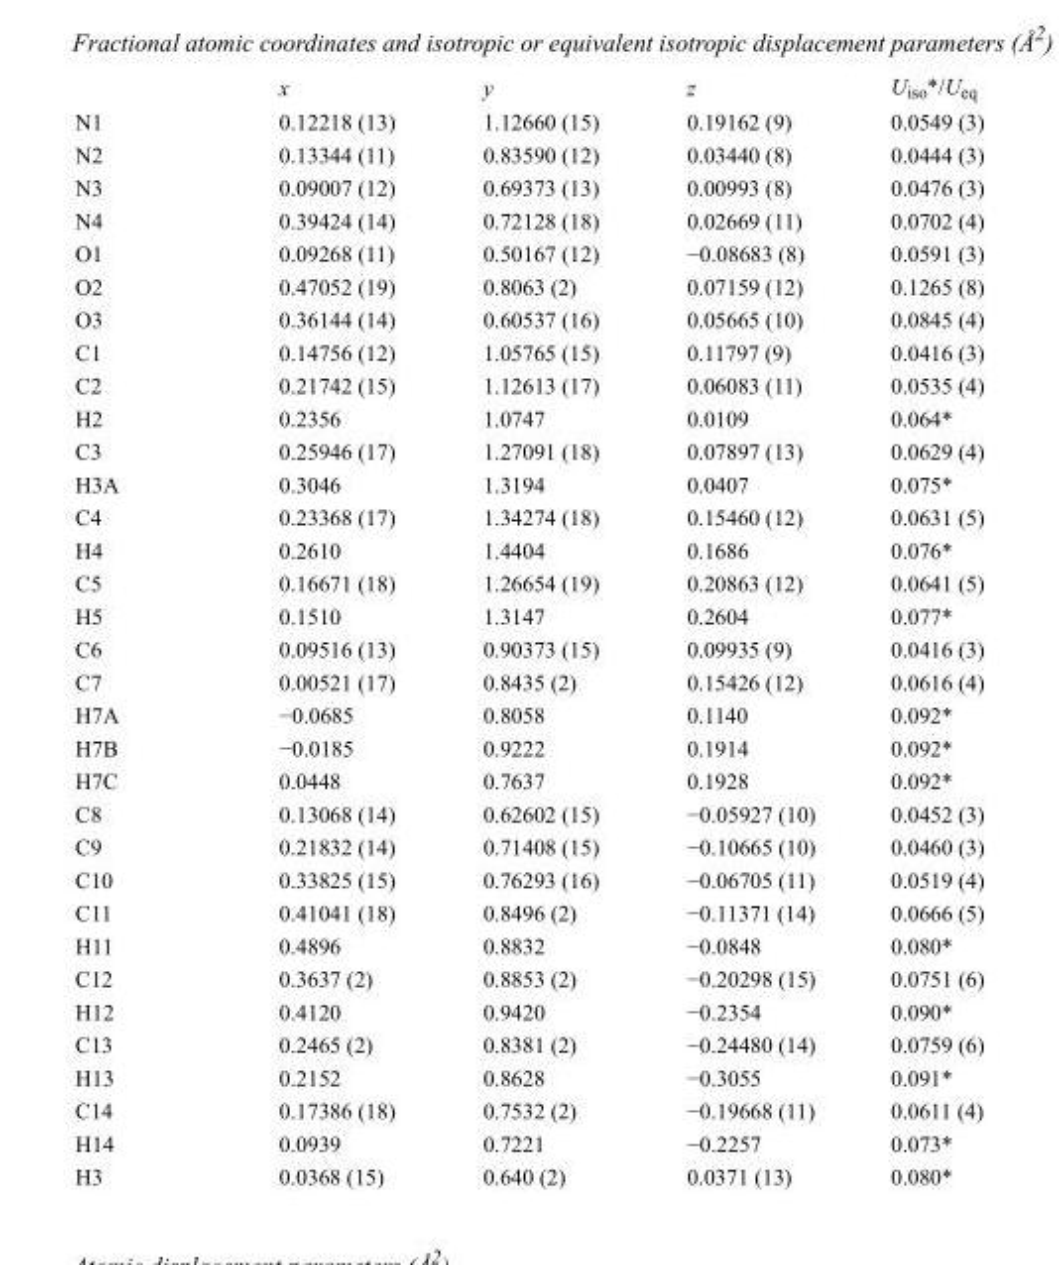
<table><thead><tr><td></td><td>x</td><td>y</td><td>z</td><td>U<sub>iso</sub>*/U<sub>eq</sub></td></tr></thead><tbody><tr><td>N1</td><td>0.12218 (13)</td><td>1.12660 (15)</td><td>0.19162 (9)</td><td>0.0549 (3)</td></tr><tr><td>N2</td><td>0.13344 (11)</td><td>0.83590 (12)</td><td>0.03440 (8)</td><td>0.0444 (3)</td></tr><tr><td>N3</td><td>0.09007 (12)</td><td>0.69373 (13)</td><td>0.00993 (8)</td><td>0.0476 (3)</td></tr><tr><td>N4</td><td>0.39424 (14)</td><td>0.72128 (18)</td><td>0.02669 (11)</td><td>0.0702 (4)</td></tr><tr><td>O1</td><td>0.09268 (11)</td><td>0.50167 (12)</td><td>−0.08683 (8)</td><td>0.0591 (3)</td></tr><tr><td>O2</td><td>0.47052 (19)</td><td>0.8063 (2)</td><td>0.07159 (12)</td><td>0.1265 (8)</td></tr><tr><td>O3</td><td>0.36144 (14)</td><td>0.60537 (16)</td><td>0.05665 (10)</td><td>0.0845 (4)</td></tr><tr><td>C1</td><td>0.14756 (12)</td><td>1.05765 (15)</td><td>0.11797 (9)</td><td>0.0416 (3)</td></tr><tr><td>C2</td><td>0.21742 (15)</td><td>1.12613 (17)</td><td>0.06083 (11)</td><td>0.0535 (4)</td></tr><tr><td>H2</td><td>0.2356</td><td>1.0747</td><td>0.0109</td><td>0.064*</td></tr><tr><td>C3</td><td>0.25946 (17)</td><td>1.27091 (18)</td><td>0.07897 (13)</td><td>0.0629 (4)</td></tr><tr><td>H3A</td><td>0.3046</td><td>1.3194</td><td>0.0407</td><td>0.075*</td></tr><tr><td>C4</td><td>0.23368 (17)</td><td>1.34274 (18)</td><td>0.15460 (12)</td><td>0.0631 (5)</td></tr><tr><td>H4</td><td>0.2610</td><td>1.4404</td><td>0.1686</td><td>0.076*</td></tr><tr><td>C5</td><td>0.16671 (18)</td><td>1.26654 (19)</td><td>0.20863 (12)</td><td>0.0641 (5)</td></tr><tr><td>H5</td><td>0.1510</td><td>1.3147</td><td>0.2604</td><td>0.077*</td></tr><tr><td>C6</td><td>0.09516 (13)</td><td>0.90373 (15)</td><td>0.09935 (9)</td><td>0.0416 (3)</td></tr><tr><td>C7</td><td>0.00521 (17)</td><td>0.8435 (2)</td><td>0.15426 (12)</td><td>0.0616 (4)</td></tr><tr><td>H7A</td><td>−0.0685</td><td>0.8058</td><td>0.1140</td><td>0.092*</td></tr><tr><td>H7B</td><td>−0.0185</td><td>0.9222</td><td>0.1914</td><td>0.092*</td></tr><tr><td>H7C</td><td>0.0448</td><td>0.7637</td><td>0.1928</td><td>0.092*</td></tr><tr><td>C8</td><td>0.13068 (14)</td><td>0.62602 (15)</td><td>−0.05927 (10)</td><td>0.0452 (3)</td></tr><tr><td>C9</td><td>0.21832 (14)</td><td>0.71408 (15)</td><td>−0.10665 (10)</td><td>0.0460 (3)</td></tr><tr><td>C10</td><td>0.33825 (15)</td><td>0.76293 (16)</td><td>−0.06705 (11)</td><td>0.0519 (4)</td></tr><tr><td>C11</td><td>0.41041 (18)</td><td>0.8496 (2)</td><td>−0.11371 (14)</td><td>0.0666 (5)</td></tr><tr><td>H11</td><td>0.4896</td><td>0.8832</td><td>−0.0848</td><td>0.080*</td></tr><tr><td>C12</td><td>0.3637 (2)</td><td>0.8853 (2)</td><td>−0.20298 (15)</td><td>0.0751 (6)</td></tr><tr><td>H12</td><td>0.4120</td><td>0.9420</td><td>−0.2354</td><td>0.090*</td></tr><tr><td>C13</td><td>0.2465 (2)</td><td>0.8381 (2)</td><td>−0.24480 (14)</td><td>0.0759 (6)</td></tr><tr><td>H13</td><td>0.2152</td><td>0.8628</td><td>−0.3055</td><td>0.091*</td></tr><tr><td>C14</td><td>0.17386 (18)</td><td>0.7532 (2)</td><td>−0.19668 (11)</td><td>0.0611 (4)</td></tr><tr><td>H14</td><td>0.0939</td><td>0.7221</td><td>−0.2257</td><td>0.073*</td></tr><tr><td>H3</td><td>0.0368 (15)</td><td>0.640 (2)</td><td>0.0371 (13)</td><td>0.080*</td></tr></tbody></table>